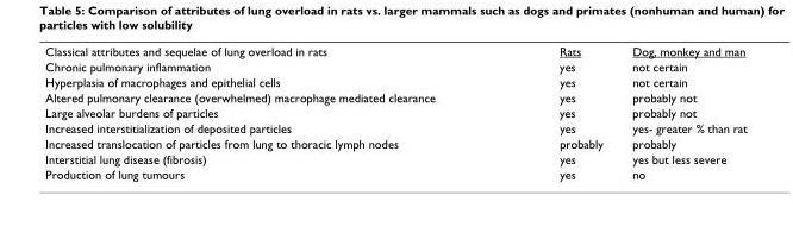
<table><tbody><tr><td>Classical attributes and sequelae of lung overload in rats</td><td>Rats</td><td>Dog, monkey and man</td></tr><tr><td>Chronic pulmonary inflammation</td><td>yes</td><td>not certain</td></tr><tr><td>Hyperplasia of macrophages and epithelial cells</td><td>yes</td><td>not certain</td></tr><tr><td>Altered pulmonary clearance (overwhelmed) macrophage mediated clearance</td><td>yes</td><td>probably not</td></tr><tr><td>Large alveolar burdens of particles</td><td>yes</td><td>probably not</td></tr><tr><td>Increased interstitialization of deposited particles</td><td>yes</td><td>yes- greater % than rat</td></tr><tr><td>Increased translocation of particles from lung to thoracic lymph nodes</td><td>probably</td><td>probably</td></tr><tr><td>Interstitial lung disease (fibrosis)</td><td>yes</td><td>yes but less severe</td></tr><tr><td>Production of lung tumours</td><td>yes</td><td>no</td></tr></tbody></table>